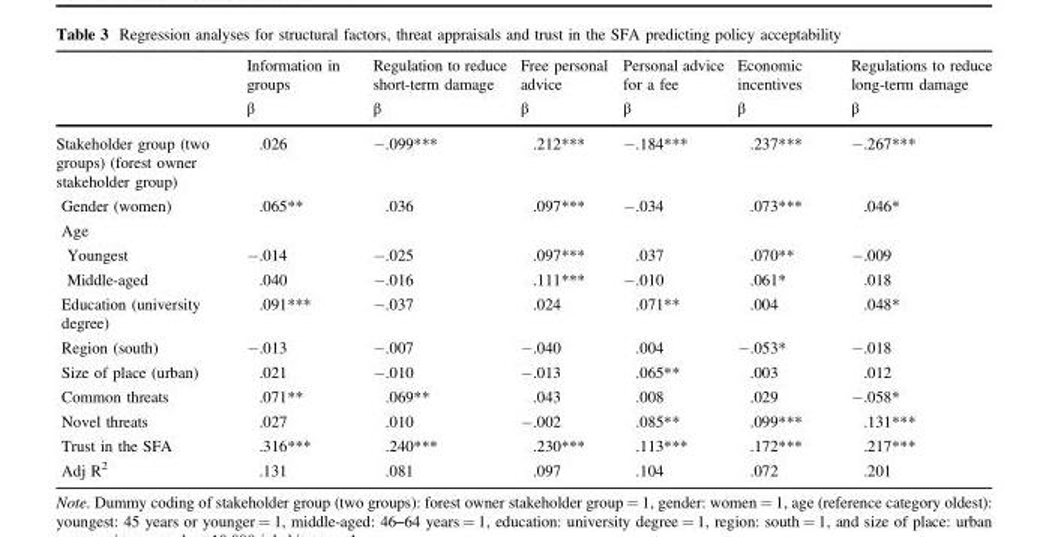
<table><thead><tr><td rowspan="2"></td><td rowspan="2">Information in groups β</td><td rowspan="2">Regulation to reduce short-term damage β</td><td rowspan="2">Free personal advice β</td><td rowspan="2">Personal advice for a fee β</td><td rowspan="2">Economic incentives β</td><td rowspan="2">Regulations to reduce long-term damage β</td></tr><tr></tr></thead><tbody><tr><td>Stakeholder group (two groups) (forest owner stakeholder group)</td><td>.026</td><td>−.099***</td><td>.212***</td><td>−.184***</td><td>.237***</td><td>−.267***</td></tr><tr><td>Gender (women)</td><td>.065**</td><td>.036</td><td>.097***</td><td>−.034</td><td>.073***</td><td>.046*</td></tr><tr><td colspan="7">Age</td></tr><tr><td>Youngest</td><td>−.014</td><td>−.025</td><td>.097***</td><td>.037</td><td>.070**</td><td>−.009</td></tr><tr><td>Middle-aged</td><td>.040</td><td>−.016</td><td>.111***</td><td>−.010</td><td>.061*</td><td>.018</td></tr><tr><td>Education (university degree)</td><td>.091***</td><td>−.037</td><td>.024</td><td>.071**</td><td>.004</td><td>.048*</td></tr><tr><td>Region (south)</td><td>−.013</td><td>−.007</td><td>−.040</td><td>.004</td><td>−.053*</td><td>−.018</td></tr><tr><td>Size of place (urban)</td><td>.021</td><td>−.010</td><td>−.013</td><td>.065**</td><td>.003</td><td>.012</td></tr><tr><td>Common threats</td><td>.071**</td><td>.069**</td><td>.043</td><td>.008</td><td>.029</td><td>−.058*</td></tr><tr><td>Novel threats</td><td>.027</td><td>.010</td><td>−.002</td><td>.085**</td><td>.099***</td><td>.131***</td></tr><tr><td>Trust in the SFA</td><td>.316***</td><td>.240***</td><td>.230***</td><td>.113***</td><td>.172***</td><td>.217***</td></tr><tr><td>Adj R<sup>2</sup></td><td>.131</td><td>.081</td><td>.097</td><td>.104</td><td>.072</td><td>.201</td></tr></tbody></table>